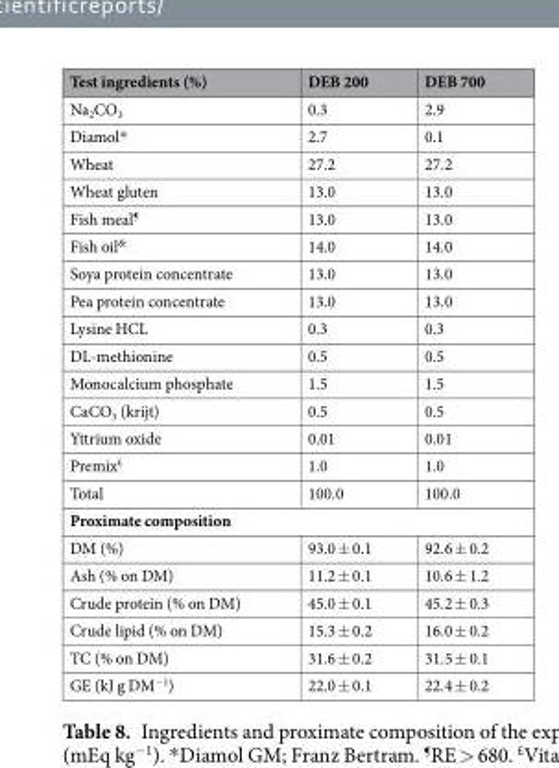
<table><thead><tr><td>Test ingredients (%)</td><td>DEB 200</td><td>DEB 700</td></tr></thead><tbody><tr><td>Na<sub>2</sub>CO<sub>3</sub></td><td>0.3</td><td>2.9</td></tr><tr><td>Diamol*</td><td>2.7</td><td>0.1</td></tr><tr><td>Wheat</td><td>27.2</td><td>27.2</td></tr><tr><td>Wheat gluten</td><td>13.0</td><td>13.0</td></tr><tr><td>Fish meal<sup>¶</sup></td><td>13.0</td><td>13.0</td></tr><tr><td>Fish oil<sup>&amp;</sup></td><td>14.0</td><td>14.0</td></tr><tr><td>Soya protein concentrate</td><td>13.0</td><td>13.0</td></tr><tr><td>Pea protein concentrate</td><td>13.0</td><td>13.0</td></tr><tr><td>Lysine HCL</td><td>0.3</td><td>0.3</td></tr><tr><td>DL-methionine</td><td>0.5</td><td>0.5</td></tr><tr><td>Monocalcium phosphate</td><td>1.5</td><td>1.5</td></tr><tr><td>CaCO<sub>3</sub> (krijt)</td><td>0.5</td><td>0.5</td></tr><tr><td>Yttrium oxide</td><td>0.01</td><td>0.01</td></tr><tr><td>Premix<sup>£</sup></td><td>1.0</td><td>1.0</td></tr><tr><td>Total</td><td>100.0</td><td>100.0</td></tr><tr><td colspan="3">Proximate composition</td></tr><tr><td>DM (%)</td><td>93.0 ± 0.1</td><td>92.6 ± 0.2</td></tr><tr><td>Ash (% on DM)</td><td>11.2 ± 0.1</td><td>10.6 ± 1.2</td></tr><tr><td>Crude protein (% on DM)</td><td>45.0 ± 0.1</td><td>45.2 ± 0.3</td></tr><tr><td>Crude lipid (% on DM)</td><td>15.3 ± 0.2</td><td>16.0 ± 0.2</td></tr><tr><td>TC (% on DM)</td><td>31.6 ± 0.2</td><td>31.5 ± 0.1</td></tr><tr><td>GE (kJ g DM<sup>−1</sup>)</td><td>22.0 ± 0.1</td><td>22.4 ± 0.2</td></tr></tbody></table>